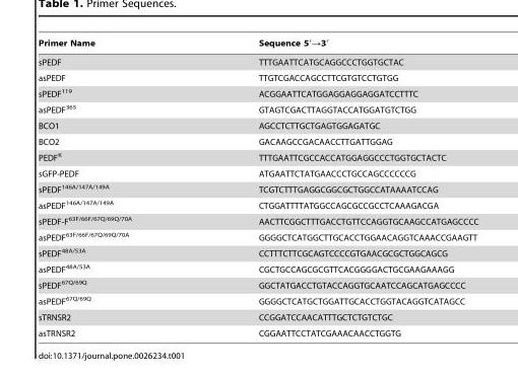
<table><thead><tr><td>Primer Name</td><td>Sequence 5′→3′</td></tr></thead><tbody><tr><td>sPEDF</td><td>TTTGAATTCATGCAGGCCCTGGTGCTAC</td></tr><tr><td>asPEDF</td><td>TTGTCGACCAGCCTTCGTGTCCTGTGG</td></tr><tr><td>sPEDF<sup>119</sup></td><td>ACGGAATTCATGGAGGAGGAGGATCCTTTC</td></tr><tr><td>asPEDF<sup>365</sup></td><td>GTAGTCGACTTAGGTACCATGGATGTCTGG</td></tr><tr><td>BCO1</td><td>AGCCTCTTGCTGAGTGGAGATGC</td></tr><tr><td>BCO2</td><td>GACAAGCCGACAACCTTGATTGGAG</td></tr><tr><td>PEDF<sup>K</sup></td><td>TTTGAATTCGCCACCATGGAGGCCCTGGTGCTACTC</td></tr><tr><td>sGFP-PEDF</td><td>ATGAATTCTATGAACCCTGCCAGCCCCCCG</td></tr><tr><td>sPEDF<sup>146A/147A/149A</sup></td><td>TCGTCTTTGAGGCGGCGCTGGCCATAAAATCCAG</td></tr><tr><td>asPEDF<sup>146A/147A/149A</sup></td><td>CTGGATTTTATGGCCAGCGCCGCCTCAAAGACGA</td></tr><tr><td>sPEDF-F<sup>63F/66F/67Q/69Q/70A</sup></td><td>AACTTCGGCTTTGACCTGTTCCAGGTGCAAGCCATGAGCCCC</td></tr><tr><td>asPEDF<sup>63F/66F/67Q/69Q/70A</sup></td><td>GGGGCTCATGGCTTGCACCTGGAACAGGTCAAACCGAAGTT</td></tr><tr><td>sPEDF<sup>48A/53A</sup></td><td>CCTTTCTTCGCAGTCCCCGTGAACGCGCTGGCAGCG</td></tr><tr><td>asPEDF<sup>48A/53A</sup></td><td>CGCTGCCAGCGCGTTCACGGGGACTGCGAAGAAAGG</td></tr><tr><td>sPEDF<sup>67Q/69Q</sup></td><td>GGCTATGACCTGTACCAGGTGCAATCCAGCATGAGCCCC</td></tr><tr><td>asPEDF<sup>67Q/69Q</sup></td><td>GGGGCTCATGCTGGATTGCACCTGGTACAGGTCATAGCC</td></tr><tr><td>sTRNSR2</td><td>CCGGATCCAACATTTGCTCTGTCTGC</td></tr><tr><td>asTRNSR2</td><td>CGGAATTCCTATCGAAACAACCTGGTG</td></tr></tbody></table>